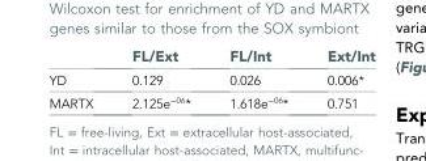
<table><thead><tr><td></td><td>FL/Ext</td><td>FL/Int</td><td>Ext/Int</td></tr></thead><tbody><tr><td>YD</td><td>0.129</td><td>0.026</td><td>0.006*</td></tr><tr><td>MARTX</td><td>2.125e<sup>−06</sup>*</td><td>1.618e<sup>−06</sup>*</td><td>0.751</td></tr></tbody></table>